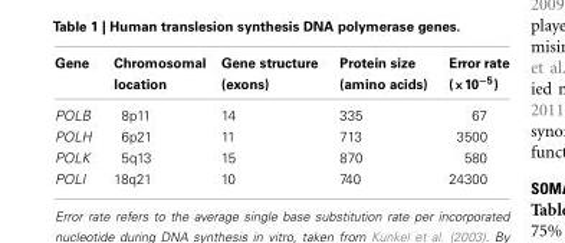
<table><thead><tr><td>Gene</td><td>Chromosomal location</td><td>Gene structure (exons)</td><td>Protein size (amino acids)</td><td>Error rate (×10<sup>−5</sup>)</td></tr></thead><tbody><tr><td>POLB</td><td>8p11</td><td>14</td><td>335</td><td>67</td></tr><tr><td>POLH</td><td>6p21</td><td>11</td><td>713</td><td>3500</td></tr><tr><td>POLK</td><td>5q13</td><td>15</td><td>870</td><td>580</td></tr><tr><td>POLI</td><td>18q21</td><td>10</td><td>740</td><td>24300</td></tr></tbody></table>